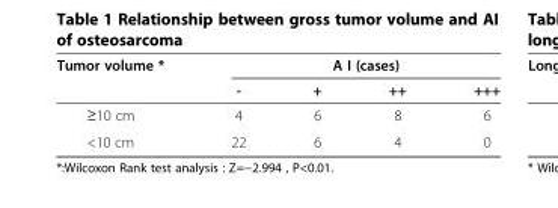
<table><thead><tr><td rowspan="2">Tumor volume *</td><td colspan="4">A I (cases)</td></tr><tr><td>-</td><td>+</td><td>++</td><td>+++</td></tr></thead><tbody><tr><td>≥10 cm</td><td>4</td><td>6</td><td>8</td><td>6</td></tr><tr><td>&lt;10 cm</td><td>22</td><td>6</td><td>4</td><td>0</td></tr></tbody></table>